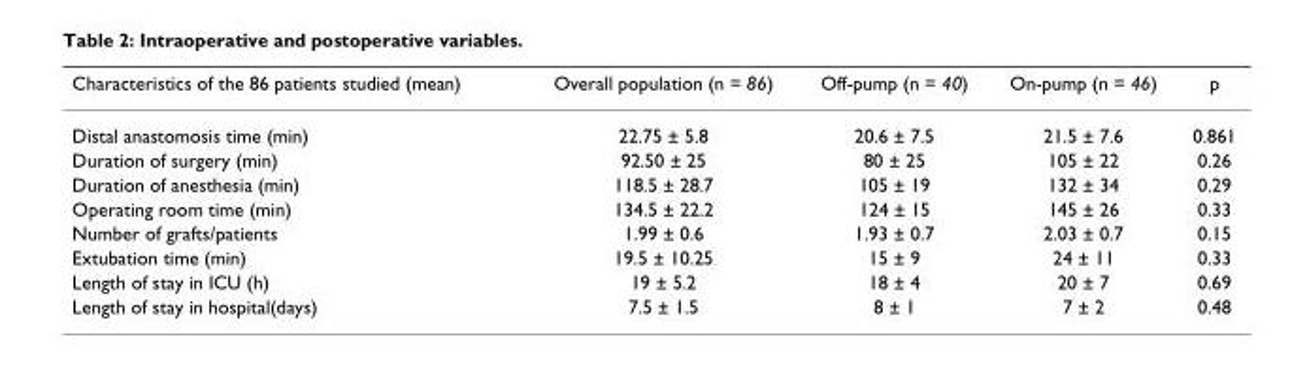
<table><thead><tr><td>Characteristics of the 86 patients studied (mean)</td><td>Overall population (n = 86)</td><td>Off-pump (n = 40)</td><td>On-pump (n = 46)</td><td>p</td></tr></thead><tbody><tr><td>Distal anastomosis time (min)</td><td>22.75 ± 5.8</td><td>20.6 ± 7.5</td><td>21.5 ± 7.6</td><td>0.861</td></tr><tr><td>Duration of surgery (min)</td><td>92.50 ± 25</td><td>80 ± 25</td><td>105 ± 22</td><td>0.26</td></tr><tr><td>Duration of anesthesia (min)</td><td>118.5 ± 28.7</td><td>105 ± 19</td><td>132 ± 34</td><td>0.29</td></tr><tr><td>Operating room time (min)</td><td>134.5 ± 22.2</td><td>124 ± 15</td><td>145 ± 26</td><td>0.33</td></tr><tr><td>Number of grafts/patients</td><td>1.99 ± 0.6</td><td>1.93 ± 0.7</td><td>2.03 ± 0.7</td><td>0.15</td></tr><tr><td>Extubation time (min)</td><td>19.5 ± 10.25</td><td>15 ± 9</td><td>24 ± 11</td><td>0.33</td></tr><tr><td>Length of stay in ICU (h)</td><td>19 ± 5.2</td><td>18 ± 4</td><td>20 ± 7</td><td>0.69</td></tr><tr><td>Length of stay in hospital(days)</td><td>7.5 ± 1.5</td><td>8 ± 1</td><td>7 ± 2</td><td>0.48</td></tr></tbody></table>